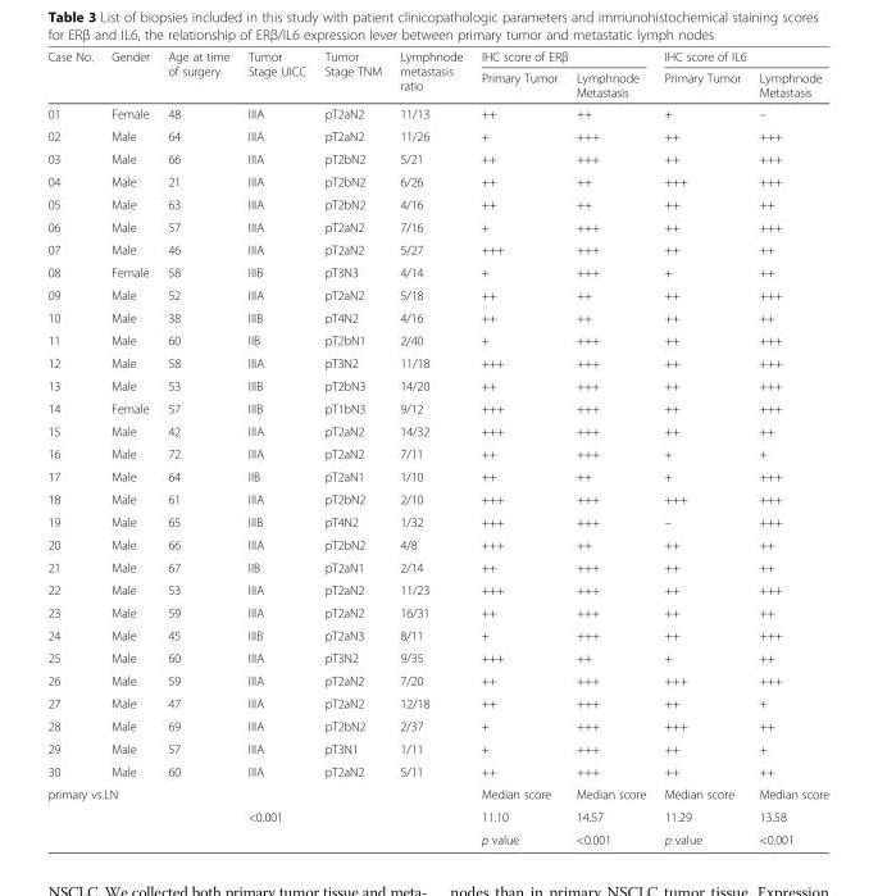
<table><thead><tr><td rowspan="2">Case No.</td><td rowspan="2">Gender</td><td rowspan="2">Age at time of surgery</td><td rowspan="2">Tumor Stage UICC</td><td rowspan="2">Tumor Stage TNM</td><td rowspan="2">Lymphnode metastasis ratio</td><td colspan="2">IHC score of ERβ</td><td colspan="2">IHC score of IL6</td></tr><tr><td>Primary Tumor</td><td>Lymphnode Metastasis</td><td>Primary Tumor</td><td>Lymphnode Metastasis</td></tr></thead><tbody><tr><td>01</td><td>Female</td><td>48</td><td>IIIA</td><td>pT2aN2</td><td>11/13</td><td>++</td><td>++</td><td>+</td><td>–</td></tr><tr><td>02</td><td>Male</td><td>64</td><td>IIIA</td><td>pT2aN2</td><td>11/26</td><td>+</td><td>+++</td><td>++</td><td>+++</td></tr><tr><td>03</td><td>Male</td><td>66</td><td>IIIA</td><td>pT2bN2</td><td>5/21</td><td>++</td><td>+++</td><td>++</td><td>+++</td></tr><tr><td>04</td><td>Male</td><td>21</td><td>IIIA</td><td>pT2bN2</td><td>6/26</td><td>++</td><td>++</td><td>+++</td><td>+++</td></tr><tr><td>05</td><td>Male</td><td>63</td><td>IIIA</td><td>pT2bN2</td><td>4/16</td><td>++</td><td>++</td><td>++</td><td>++</td></tr><tr><td>06</td><td>Male</td><td>57</td><td>IIIA</td><td>pT2aN2</td><td>7/16</td><td>+</td><td>+++</td><td>++</td><td>+++</td></tr><tr><td>07</td><td>Male</td><td>46</td><td>IIIA</td><td>pT2aN2</td><td>5/27</td><td>+++</td><td>+++</td><td>++</td><td>++</td></tr><tr><td>08</td><td>Female</td><td>58</td><td>IIIB</td><td>pT3N3</td><td>4/14</td><td>+</td><td>+++</td><td>+</td><td>++</td></tr><tr><td>09</td><td>Male</td><td>52</td><td>IIIA</td><td>pT2aN2</td><td>5/18</td><td>++</td><td>++</td><td>++</td><td>+++</td></tr><tr><td>10</td><td>Male</td><td>38</td><td>IIIB</td><td>pT4N2</td><td>4/16</td><td>++</td><td>++</td><td>++</td><td>++</td></tr><tr><td>11</td><td>Male</td><td>60</td><td>IIB</td><td>pT2bN1</td><td>2/40</td><td>+</td><td>+++</td><td>++</td><td>+++</td></tr><tr><td>12</td><td>Male</td><td>58</td><td>IIIA</td><td>pT3N2</td><td>11/18</td><td>+++</td><td>+++</td><td>++</td><td>+++</td></tr><tr><td>13</td><td>Male</td><td>53</td><td>IIIB</td><td>pT2bN3</td><td>14/20</td><td>++</td><td>+++</td><td>++</td><td>+++</td></tr><tr><td>14</td><td>Female</td><td>57</td><td>IIIB</td><td>pT1bN3</td><td>9/12</td><td>+++</td><td>+++</td><td>++</td><td>+++</td></tr><tr><td>15</td><td>Male</td><td>42</td><td>IIIA</td><td>pT2aN2</td><td>14/32</td><td>+++</td><td>+++</td><td>++</td><td>++</td></tr><tr><td>16</td><td>Male</td><td>72</td><td>IIIA</td><td>pT2aN2</td><td>7/11</td><td>++</td><td>+++</td><td>+</td><td>+</td></tr><tr><td>17</td><td>Male</td><td>64</td><td>IIB</td><td>pT2aN1</td><td>1/10</td><td>++</td><td>++</td><td>+</td><td>+++</td></tr><tr><td>18</td><td>Male</td><td>61</td><td>IIIA</td><td>pT2bN2</td><td>2/10</td><td>+++</td><td>+++</td><td>+++</td><td>+++</td></tr><tr><td>19</td><td>Male</td><td>65</td><td>IIIB</td><td>pT4N2</td><td>1/32</td><td>+++</td><td>+++</td><td>–</td><td>+++</td></tr><tr><td>20</td><td>Male</td><td>66</td><td>IIIA</td><td>pT2bN2</td><td>4/8</td><td>+++</td><td>++</td><td>++</td><td>++</td></tr><tr><td>21</td><td>Male</td><td>67</td><td>IIB</td><td>pT2aN1</td><td>2/14</td><td>++</td><td>+++</td><td>++</td><td>++</td></tr><tr><td>22</td><td>Male</td><td>53</td><td>IIIA</td><td>pT2aN2</td><td>11/23</td><td>+++</td><td>+++</td><td>++</td><td>+++</td></tr><tr><td>23</td><td>Male</td><td>59</td><td>IIIA</td><td>pT2aN2</td><td>16/31</td><td>++</td><td>+++</td><td>++</td><td>++</td></tr><tr><td>24</td><td>Male</td><td>45</td><td>IIIB</td><td>pT2aN3</td><td>8/11</td><td>+</td><td>+++</td><td>++</td><td>+++</td></tr><tr><td>25</td><td>Male</td><td>60</td><td>IIIA</td><td>pT3N2</td><td>9/35</td><td>+++</td><td>++</td><td>+</td><td>++</td></tr><tr><td>26</td><td>Male</td><td>59</td><td>IIIA</td><td>pT2aN2</td><td>7/20</td><td>++</td><td>+++</td><td>+++</td><td>+++</td></tr><tr><td>27</td><td>Male</td><td>47</td><td>IIIA</td><td>pT2aN2</td><td>12/18</td><td>++</td><td>+++</td><td>++</td><td>+</td></tr><tr><td>28</td><td>Male</td><td>69</td><td>IIIA</td><td>pT2bN2</td><td>2/37</td><td>+</td><td>+++</td><td>+++</td><td>++</td></tr><tr><td>29</td><td>Male</td><td>57</td><td>IIIA</td><td>pT3N1</td><td>1/11</td><td>+</td><td>+++</td><td>++</td><td>+</td></tr><tr><td>30</td><td>Male</td><td>60</td><td>IIIA</td><td>pT2aN2</td><td>5/11</td><td>++</td><td>+++</td><td>++</td><td>++</td></tr><tr><td rowspan="3" colspan="3">primary vs.LN</td><td colspan="2"></td><td></td><td>Median score</td><td>Median score</td><td>Median score</td><td>Median score</td></tr><tr><td colspan="2">&lt;0.001</td><td></td><td>11.10</td><td>14.57</td><td>11.29</td><td>13.58</td></tr><tr><td colspan="2"></td><td></td><td>p value</td><td>&lt;0.001</td><td>p value</td><td>&lt;0.001</td></tr></tbody></table>